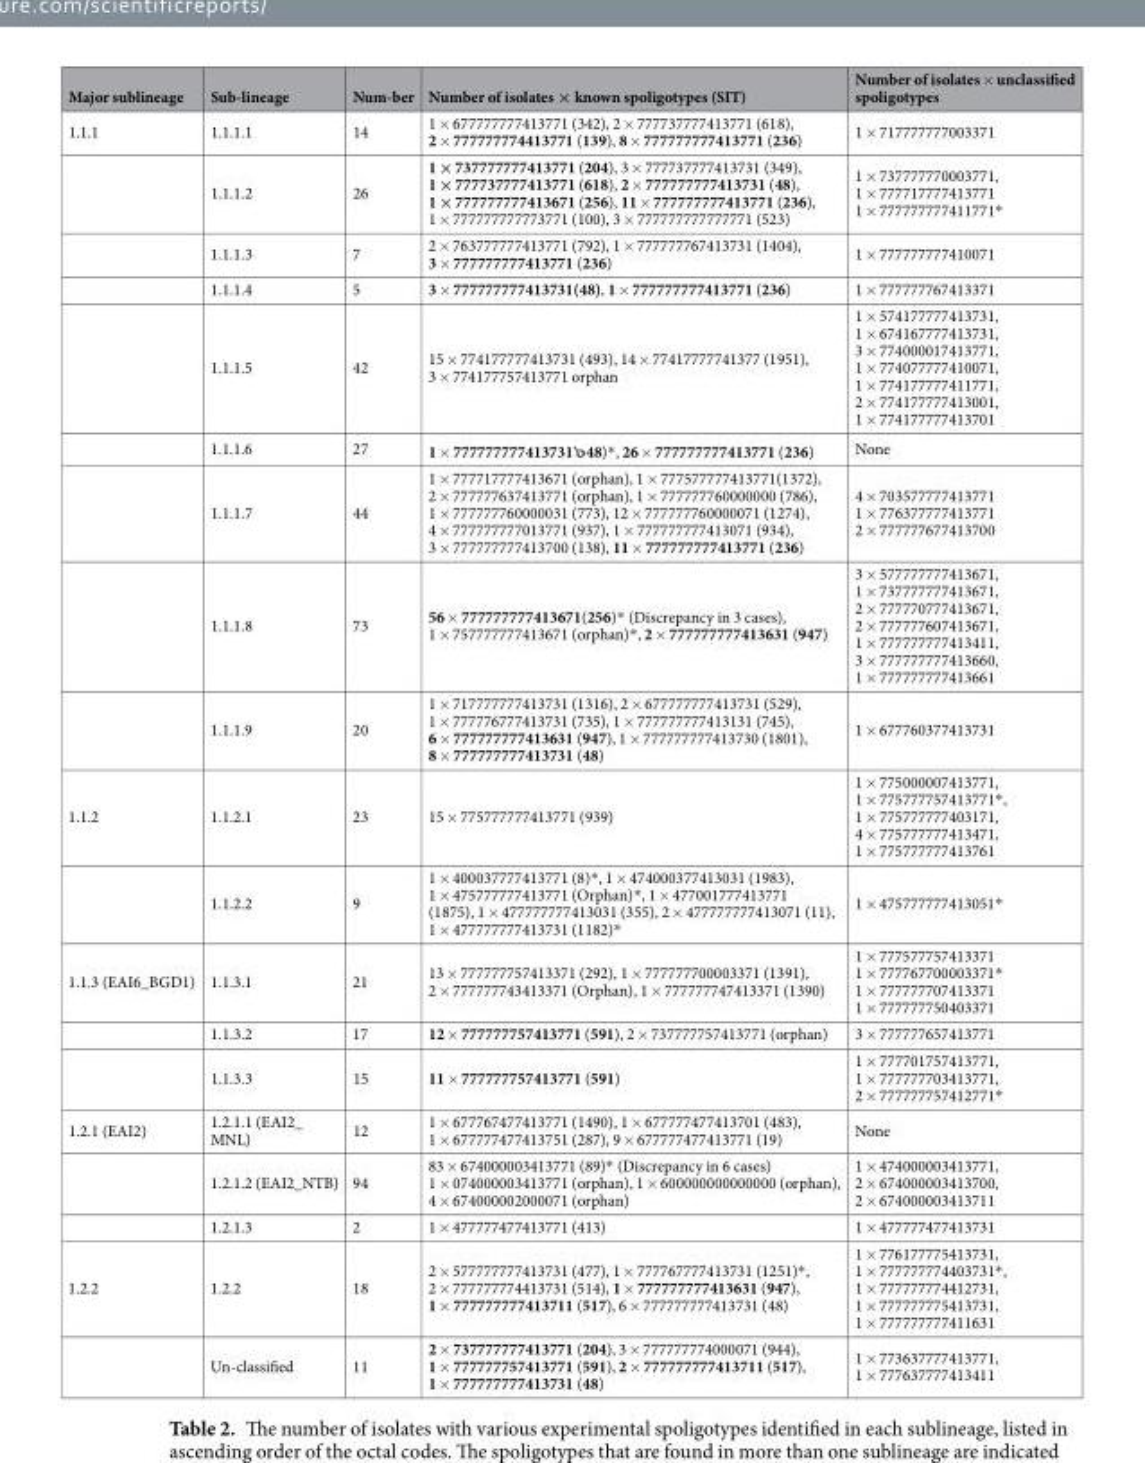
<table><thead><tr><td>Major sublineage</td><td>Sub-lineage</td><td>Num-ber</td><td>Number of isolates × known spoligotypes (SIT)</td><td>Number of isolates × unclassified spoligotypes</td></tr></thead><tbody><tr><td rowspan="9">1.1.1</td><td>1.1.1.1</td><td>14</td><td>1 × 677777777413771 (342), 2 × 777737777413771 (618), 2 × 777777774413771 (139), 8 × 777777777413771 (236)</td><td>1 × 717777777003371</td></tr><tr><td>1.1.1.2</td><td>26</td><td>1 × 737777777413771 (204), 3 × 777737777413731 (349), 1 × 777737777413771 (618), 2 × 777777777413731 (48), 1 × 777777777413671 (256), 11 × 777777777413771 (236), 1 × 777777777773771 (100), 3 × 777777777777771 (523)</td><td>1 × 737777770003771, 1 × 777717777413771 1 × 777777777411771*</td></tr><tr><td>1.1.1.3</td><td>7</td><td>2 × 763777777413771 (792), 1 × 777777767413731 (1404), 3 × 777777777413771 (236)</td><td>1 × 777777777410071</td></tr><tr><td>1.1.1.4</td><td>5</td><td>3 × 777777777413731(48), 1 × 777777777413771 (236)</td><td>1 × 777777767413371</td></tr><tr><td>1.1.1.5</td><td>42</td><td>15 × 774177777413731 (493), 14 × 77417777741377 (1951), 3 × 774177757413771 orphan</td><td>1 × 574177777413731, 1 × 674167777413731, 3 × 774000017413771, 1 × 774077777410071, 1 × 774177777411771, 2 × 774177777413001, 1 × 774177777413701</td></tr><tr><td>1.1.1.6</td><td>27</td><td>1 × 777777777413731๖48)*, 26 × 777777777413771 (236)</td><td>None</td></tr><tr><td>1.1.1.7</td><td>44</td><td>1 × 777717777413671 (orphan), 1 × 777577777413771(1372), 2 × 777777637413771 (orphan), 1 × 777777760000000 (786), 1 × 777777760000031 (773), 12 × 777777760000071 (1274), 4 × 777777777013771 (937), 1 × 777777777413071 (934), 3 × 777777777413700 (138), 11 × 777777777413771 (236)</td><td>4 × 703577777413771 1 × 776377777413771 2 × 777777677413700</td></tr><tr><td>1.1.1.8</td><td>73</td><td>56 × 777777777413671(256)* (Discrepancy in 3 cases), 1 × 757777777413671 (orphan)*, 2 × 777777777413631 (947)</td><td>3 × 577777777413671, 1 × 737777777413671, 2 × 777770777413671, 2 × 777777607413671, 1 × 777777777413411, 3 × 777777777413660, 1 × 777777777413661</td></tr><tr><td>1.1.1.9</td><td>20</td><td>1 × 717777777413731 (1316), 2 × 677777777413731 (529), 1 × 777776777413731 (735), 1 × 777777777413131 (745), 6 × 777777777413631 (947), 1 × 777777777413730 (1801), 8 × 777777777413731 (48)</td><td>1 × 677760377413731</td></tr><tr><td rowspan="2">1.1.2</td><td>1.1.2.1</td><td>23</td><td>15 × 775777777413771 (939)</td><td>1 × 775000007413771, 1 × 775777757413771*, 1 × 775777777403171, 4 × 775777777413471, 1 × 775777777413761</td></tr><tr><td>1.1.2.2</td><td>9</td><td>1 × 400037777413771 (8)*, 1 × 474000377413031 (1983), 1 × 475777777413771 (Orphan)*, 1 × 477001777413771 (1875), 1 × 477777777413031 (355), 2 × 477777777413071 (11), 1 × 477777777413731 (1182)*</td><td>1 × 475777777413051*</td></tr><tr><td rowspan="3">1.1.3 (EAI6_BGD1)</td><td>1.1.3.1</td><td>21</td><td>13 × 777777757413371 (292), 1 × 777777700003371 (1391), 2 × 777777743413371 (Orphan), 1 × 777777747413371 (1390)</td><td>1 × 777577757413371 1 × 777767700003371* 1 × 777777707413371 1 × 777777750403371</td></tr><tr><td>1.1.3.2</td><td>17</td><td>12 × 777777757413771 (591), 2 × 737777757413771 (orphan)</td><td>3 × 777777657413771</td></tr><tr><td>1.1.3.3</td><td>15</td><td>11 × 777777757413771 (591)</td><td>1 × 777701757413771, 1 × 777777703413771, 2 × 777777757412771*</td></tr><tr><td rowspan="3">1.2.1 (EAI2)</td><td>1.2.1.1 (EAI2_ MNL)</td><td>12</td><td>1 × 677767477413771 (1490), 1 × 677777477413701 (483), 1 × 677777477413751 (287), 9 × 677777477413771 (19)</td><td>None</td></tr><tr><td>1.2.1.2 (EAI2_NTB)</td><td>94</td><td>83 × 674000003413771 (89)* (Discrepancy in 6 cases) 1 × 074000003413771 (orphan), 1 × 600000000000000 (orphan), 4 × 674000002000071 (orphan)</td><td>1 × 474000003413771, 2 × 674000003413700, 2 × 674000003413711</td></tr><tr><td>1.2.1.3</td><td>2</td><td>1 × 477777477413771 (413)</td><td>1 × 477777477413731</td></tr><tr><td rowspan="2">1.2.2</td><td>1.2.2</td><td>18</td><td>2 × 577777777413731 (477), 1 × 777767777413731 (1251)*, 2 × 777777774413731 (514), 1 × 777777777413631 (947), 1 × 777777777413711 (517), 6 × 777777777413731 (48)</td><td>1 × 776177775413731, 1 × 777777774403731*, 1 × 777777774412731, 1 × 777777775413731, 1 × 777777777411631</td></tr><tr><td>Un-classified</td><td>11</td><td>2 × 737777777413771 (204), 3 × 777777774000071 (944), 1 × 777777757413771 (591), 2 × 777777777413711 (517), 1 × 777777777413731 (48)</td><td>1 × 773637777413771, 1 × 777637777413411</td></tr></tbody></table>